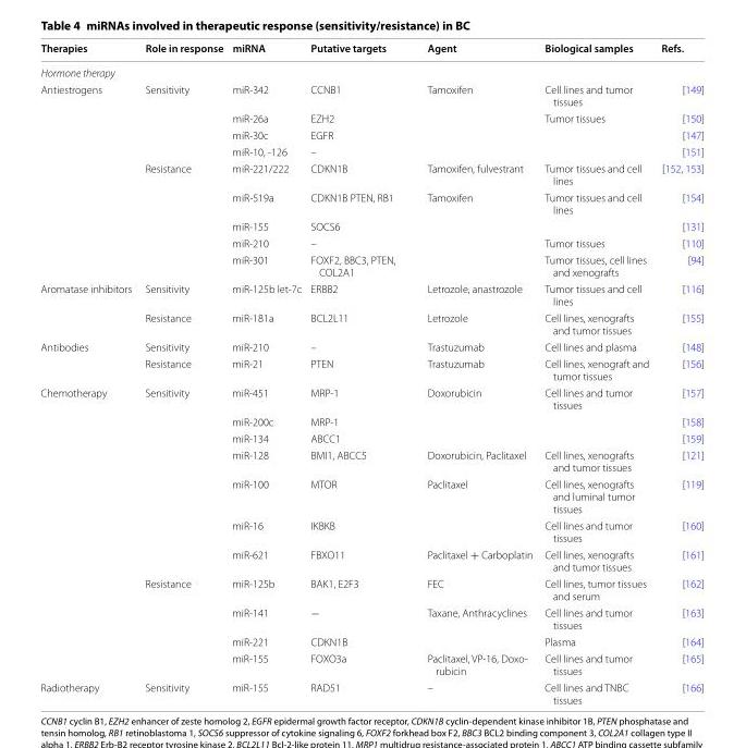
<table><thead><tr><td>Therapies</td><td>Role in response</td><td>miRNA</td><td>Putative targets</td><td>Agent</td><td>Biological samples</td><td>Refs.</td></tr></thead><tbody><tr><td colspan="7">Hormone therapy</td></tr><tr><td rowspan="9">Antiestrogens</td><td rowspan="4">Sensitivity</td><td>miR-342</td><td>CCNB1</td><td>Tamoxifen</td><td>Cell lines and tumor tissues</td><td>[149]</td></tr><tr><td>miR-26a</td><td>EZH2</td><td></td><td>Tumor tissues</td><td>[150]</td></tr><tr><td>miR-30c</td><td>EGFR</td><td></td><td></td><td>[147]</td></tr><tr><td>miR-10, -126</td><td>–</td><td></td><td></td><td>[151]</td></tr><tr><td rowspan="5">Resistance</td><td>miR-221/222</td><td>CDKN1B</td><td>Tamoxifen, fulvestrant</td><td>Tumor tissues and cell lines</td><td>[152, 153]</td></tr><tr><td>miR-519a</td><td>CDKN1B PTEN, RB1</td><td>Tamoxifen</td><td>Tumor tissues and cell lines</td><td>[154]</td></tr><tr><td>miR-155</td><td>SOCS6</td><td></td><td></td><td>[131]</td></tr><tr><td>miR-210</td><td>–</td><td></td><td>Tumor tissues</td><td>[110]</td></tr><tr><td>miR-301</td><td>FOXF2, BBC3, PTEN, COL2A1</td><td></td><td>Tumor tissues, cell lines and xenografts</td><td>[94]</td></tr><tr><td rowspan="2">Aromatase inhibitors</td><td>Sensitivity</td><td>miR-125b let-7c</td><td>ERBB2</td><td>Letrozole, anastrozole</td><td>Tumor tissues and cell lines</td><td>[116]</td></tr><tr><td>Resistance</td><td>miR-181a</td><td>BCL2L11</td><td>Letrozole</td><td>Cell lines, xenografts and tumor tissues</td><td>[155]</td></tr><tr><td rowspan="2">Antibodies</td><td>Sensitivity</td><td>miR-210</td><td>–</td><td>Trastuzumab</td><td>Cell lines and plasma</td><td>[148]</td></tr><tr><td>Resistance</td><td>miR-21</td><td>PTEN</td><td>Trastuzumab</td><td>Cell lines, xenograft and tumor tissues</td><td>[156]</td></tr><tr><td rowspan="11">Chemotherapy</td><td rowspan="7">Sensitivity</td><td>miR-451</td><td>MRP-1</td><td>Doxorubicin</td><td>Cell lines and tumor tissues</td><td>[157]</td></tr><tr><td>miR-200c</td><td>MRP-1</td><td></td><td></td><td>[158]</td></tr><tr><td>miR-134</td><td>ABCC1</td><td></td><td></td><td>[159]</td></tr><tr><td>miR-128</td><td>BMI1, ABCC5</td><td>Doxorubicin, Paclitaxel</td><td>Cell lines, xenografts and tumor tissues</td><td>[121]</td></tr><tr><td>miR-100</td><td>MTOR</td><td>Paclitaxel</td><td>Cell lines, xenografts and luminal tumor tissues</td><td>[119]</td></tr><tr><td>miR-16</td><td>IKBKB</td><td></td><td>Cell lines and tumor tissues</td><td>[160]</td></tr><tr><td>miR-621</td><td>FBXO11</td><td>Paclitaxel + Carboplatin</td><td>Cell lines, xenografts and tumor tissues</td><td>[161]</td></tr><tr><td rowspan="4">Resistance</td><td>miR-125b</td><td>BAK1, E2F3</td><td>FEC</td><td>Cell lines, tumor tissues and serum</td><td>[162]</td></tr><tr><td>miR-141</td><td>−</td><td>Taxane, Anthracyclines</td><td>Cell lines and tumor tissues</td><td>[163]</td></tr><tr><td>miR-221</td><td>CDKN1B</td><td></td><td>Plasma</td><td>[164]</td></tr><tr><td>miR-155</td><td>FOXO3a</td><td>Paclitaxel, VP-16, Doxo- rubicin</td><td>Cell lines and tumor tissues</td><td>[165]</td></tr><tr><td>Radiotherapy</td><td>Sensitivity</td><td>miR-155</td><td>RAD51</td><td>–</td><td>Cell lines and TNBC tissues</td><td>[166]</td></tr></tbody></table>